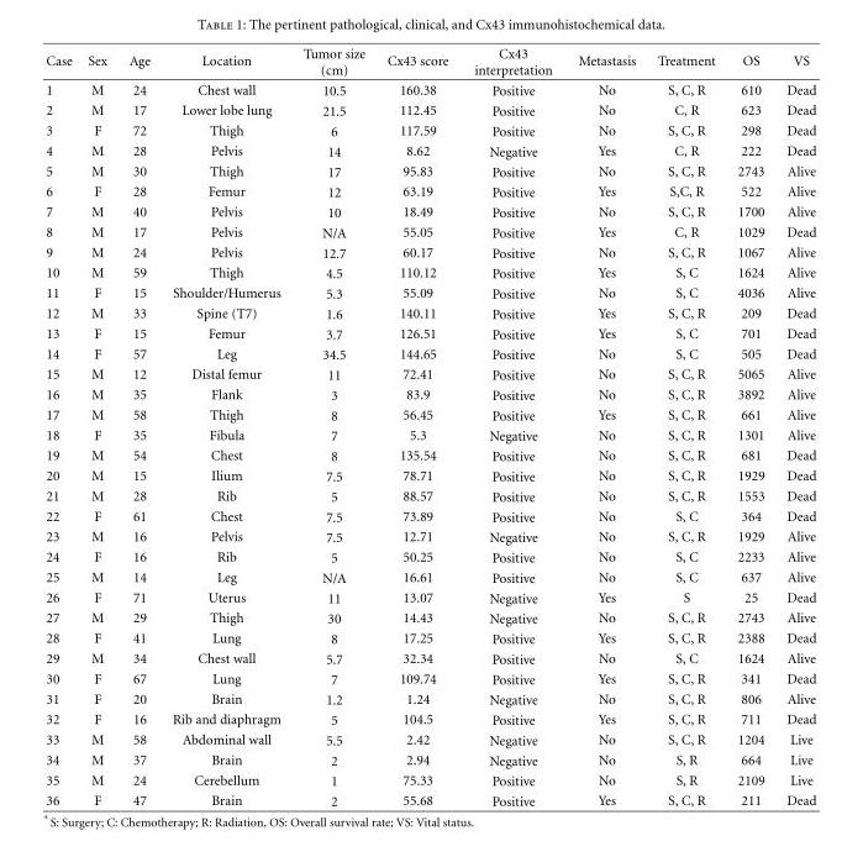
<table><thead><tr><td>Case</td><td>Sex</td><td>Age</td><td>Location</td><td>Tumor size (cm)</td><td>Cx43 score</td><td>Cx43 interpretation</td><td>Metastasis</td><td>Treatment</td><td>OS</td><td>VS</td></tr></thead><tbody><tr><td>1</td><td>M</td><td>24</td><td>Chest wall</td><td>10.5</td><td>160.38</td><td>Positive</td><td>No</td><td>S, C, R</td><td>610</td><td>Dead</td></tr><tr><td>2</td><td>M</td><td>17</td><td>Lower lobe lung</td><td>21.5</td><td>112.45</td><td>Positive</td><td>No</td><td>C, R</td><td>623</td><td>Dead</td></tr><tr><td>3</td><td>F</td><td>72</td><td>Thigh</td><td>6</td><td>117.59</td><td>Positive</td><td>No</td><td>S, C, R</td><td>298</td><td>Dead</td></tr><tr><td>4</td><td>M</td><td>28</td><td>Pelvis</td><td>14</td><td>8.62</td><td>Negative</td><td>Yes</td><td>C, R</td><td>222</td><td>Dead</td></tr><tr><td>5</td><td>M</td><td>30</td><td>Thigh</td><td>17</td><td>95.83</td><td>Positive</td><td>No</td><td>S, C, R</td><td>2743</td><td>Alive</td></tr><tr><td>6</td><td>F</td><td>28</td><td>Femur</td><td>12</td><td>63.19</td><td>Positive</td><td>Yes</td><td>S,C, R</td><td>522</td><td>Alive</td></tr><tr><td>7</td><td>M</td><td>40</td><td>Pelvis</td><td>10</td><td>18.49</td><td>Positive</td><td>No</td><td>S, C, R</td><td>1700</td><td>Alive</td></tr><tr><td>8</td><td>M</td><td>17</td><td>Pelvis</td><td>N/A</td><td>55.05</td><td>Positive</td><td>Yes</td><td>C, R</td><td>1029</td><td>Dead</td></tr><tr><td>9</td><td>M</td><td>24</td><td>Pelvis</td><td>12.7</td><td>60.17</td><td>Positive</td><td>No</td><td>S, C, R</td><td>1067</td><td>Alive</td></tr><tr><td>10</td><td>M</td><td>59</td><td>Thigh</td><td>4.5</td><td>110.12</td><td>Positive</td><td>Yes</td><td>S, C</td><td>1624</td><td>Alive</td></tr><tr><td>11</td><td>F</td><td>15</td><td>Shoulder/Humerus</td><td>5.3</td><td>55.09</td><td>Positive</td><td>No</td><td>S, C</td><td>4036</td><td>Alive</td></tr><tr><td>12</td><td>M</td><td>33</td><td>Spine (T7)</td><td>1.6</td><td>140.11</td><td>Positive</td><td>Yes</td><td>S, C, R</td><td>209</td><td>Dead</td></tr><tr><td>13</td><td>F</td><td>15</td><td>Femur</td><td>3.7</td><td>126.51</td><td>Positive</td><td>Yes</td><td>S, C</td><td>701</td><td>Dead</td></tr><tr><td>14</td><td>F</td><td>57</td><td>Leg</td><td>34.5</td><td>144.65</td><td>Positive</td><td>No</td><td>S, C</td><td>505</td><td>Dead</td></tr><tr><td>15</td><td>M</td><td>12</td><td>Distal femur</td><td>11</td><td>72.41</td><td>Positive</td><td>No</td><td>S, C, R</td><td>5065</td><td>Alive</td></tr><tr><td>16</td><td>M</td><td>35</td><td>Flank</td><td>3</td><td>83.9</td><td>Positive</td><td>No</td><td>S, C, R</td><td>3892</td><td>Alive</td></tr><tr><td>17</td><td>M</td><td>58</td><td>Thigh</td><td>8</td><td>56.45</td><td>Positive</td><td>Yes</td><td>S, C, R</td><td>661</td><td>Alive</td></tr><tr><td>18</td><td>F</td><td>35</td><td>Fibula</td><td>7</td><td>5.3</td><td>Negative</td><td>No</td><td>S, C, R</td><td>1301</td><td>Alive</td></tr><tr><td>19</td><td>M</td><td>54</td><td>Chest</td><td>8</td><td>135.54</td><td>Positive</td><td>No</td><td>S, C, R</td><td>681</td><td>Dead</td></tr><tr><td>20</td><td>M</td><td>15</td><td>Ilium</td><td>7.5</td><td>78.71</td><td>Positive</td><td>No</td><td>S, C, R</td><td>1929</td><td>Dead</td></tr><tr><td>21</td><td>M</td><td>28</td><td>Rib</td><td>5</td><td>88.57</td><td>Positive</td><td>No</td><td>S, C, R</td><td>1553</td><td>Dead</td></tr><tr><td>22</td><td>F</td><td>61</td><td>Chest</td><td>7.5</td><td>73.89</td><td>Positive</td><td>No</td><td>S, C</td><td>364</td><td>Dead</td></tr><tr><td>23</td><td>M</td><td>16</td><td>Pelvis</td><td>7.5</td><td>12.71</td><td>Negative</td><td>No</td><td>S, C, R</td><td>1929</td><td>Alive</td></tr><tr><td>24</td><td>F</td><td>16</td><td>Rib</td><td>5</td><td>50.25</td><td>Positive</td><td>No</td><td>S, C</td><td>2233</td><td>Alive</td></tr><tr><td>25</td><td>M</td><td>14</td><td>Leg</td><td>N/A</td><td>16.61</td><td>Positive</td><td>No</td><td>S, C</td><td>637</td><td>Alive</td></tr><tr><td>26</td><td>F</td><td>71</td><td>Uterus</td><td>11</td><td>13.07</td><td>Negative</td><td>Yes</td><td>S</td><td>25</td><td>Dead</td></tr><tr><td>27</td><td>M</td><td>29</td><td>Thigh</td><td>30</td><td>14.43</td><td>Negative</td><td>No</td><td>S, C, R</td><td>2743</td><td>Alive</td></tr><tr><td>28</td><td>F</td><td>41</td><td>Lung</td><td>8</td><td>17.25</td><td>Positive</td><td>Yes</td><td>S, C, R</td><td>2388</td><td>Dead</td></tr><tr><td>29</td><td>M</td><td>34</td><td>Chest wall</td><td>5.7</td><td>32.34</td><td>Positive</td><td>No</td><td>S, C</td><td>1624</td><td>Alive</td></tr><tr><td>30</td><td>F</td><td>67</td><td>Lung</td><td>7</td><td>109.74</td><td>Positive</td><td>Yes</td><td>S, C, R</td><td>341</td><td>Dead</td></tr><tr><td>31</td><td>F</td><td>20</td><td>Brain</td><td>1.2</td><td>1.24</td><td>Negative</td><td>No</td><td>S, C, R</td><td>806</td><td>Alive</td></tr><tr><td>32</td><td>F</td><td>16</td><td>Rib and diaphragm</td><td>5</td><td>104.5</td><td>Positive</td><td>Yes</td><td>S, C, R</td><td>711</td><td>Dead</td></tr><tr><td>33</td><td>M</td><td>58</td><td>Abdominal wall</td><td>5.5</td><td>2.42</td><td>Negative</td><td>No</td><td>S, C, R</td><td>1204</td><td>Live</td></tr><tr><td>34</td><td>M</td><td>37</td><td>Brain</td><td>2</td><td>2.94</td><td>Negative</td><td>No</td><td>S, R</td><td>664</td><td>Live</td></tr><tr><td>35</td><td>M</td><td>24</td><td>Cerebellum</td><td>1</td><td>75.33</td><td>Positive</td><td>No</td><td>S, R</td><td>2109</td><td>Live</td></tr><tr><td>36</td><td>F</td><td>47</td><td>Brain</td><td>2</td><td>55.68</td><td>Positive</td><td>Yes</td><td>S, C, R</td><td>211</td><td>Dead</td></tr></tbody></table>